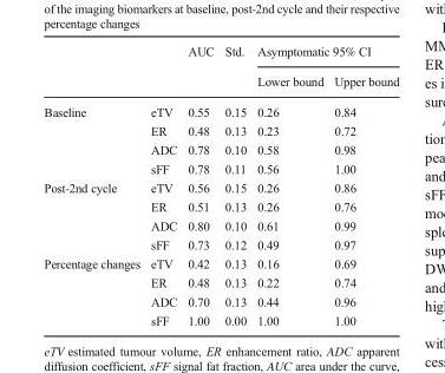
<table><thead><tr><td rowspan="2"></td><td rowspan="2"></td><td rowspan="2">AUC</td><td rowspan="2">Std.</td><td colspan="2">Asymptomatic 95% CI</td></tr><tr><td>Lower bound</td><td>Upper bound</td></tr></thead><tbody><tr><td rowspan="4">Baseline</td><td>eTV</td><td>0.55</td><td>0.15</td><td>0.26</td><td>0.84</td></tr><tr><td>ER</td><td>0.48</td><td>0.13</td><td>0.23</td><td>0.72</td></tr><tr><td>ADC</td><td>0.78</td><td>0.10</td><td>0.58</td><td>0.98</td></tr><tr><td>sFF</td><td>0.78</td><td>0.11</td><td>0.56</td><td>1.00</td></tr><tr><td rowspan="4">Post-2nd cycle</td><td>eTV</td><td>0.56</td><td>0.15</td><td>0.26</td><td>0.86</td></tr><tr><td>ER</td><td>0.51</td><td>0.13</td><td>0.26</td><td>0.76</td></tr><tr><td>ADC</td><td>0.80</td><td>0.10</td><td>0.61</td><td>0.99</td></tr><tr><td>sFF</td><td>0.73</td><td>0.12</td><td>0.49</td><td>0.97</td></tr><tr><td rowspan="4">Percentage changes</td><td>eTV</td><td>0.42</td><td>0.13</td><td>0.16</td><td>0.69</td></tr><tr><td>ER</td><td>0.48</td><td>0.13</td><td>0.22</td><td>0.74</td></tr><tr><td>ADC</td><td>0.70</td><td>0.13</td><td>0.44</td><td>0.96</td></tr><tr><td>sFF</td><td>1.00</td><td>0.00</td><td>1.00</td><td>1.00</td></tr></tbody></table>